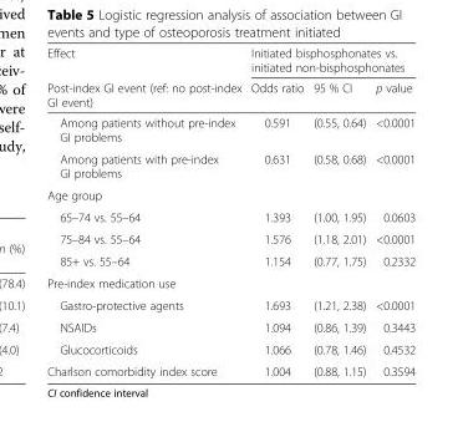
<table><thead><tr><td rowspan="2">Effect Post-index GI event (ref: no post-index GI event)</td><td colspan="3">Initiated bisphosphonates vs. initiated non-bisphosphonates</td></tr><tr><td>Odds ratio</td><td>95 % CI</td><td>p value</td></tr></thead><tbody><tr><td>Among patients without pre-index GI problems</td><td>0.591</td><td>(0.55, 0.64)</td><td>&lt;0.0001</td></tr><tr><td>Among patients with pre-index GI problems</td><td>0.631</td><td>(0.58, 0.68)</td><td>&lt;0.0001</td></tr><tr><td colspan="4">Age group</td></tr><tr><td>65–74 vs. 55–64</td><td>1.393</td><td>(1.00, 1.95)</td><td>0.0603</td></tr><tr><td>75–84 vs. 55–64</td><td>1.576</td><td>(1.18, 2.01)</td><td>&lt;0.0001</td></tr><tr><td>85+ vs. 55–64</td><td>1.154</td><td>(0.77, 1.75)</td><td>0.2332</td></tr><tr><td colspan="4">Pre-index medication use</td></tr><tr><td>Gastro-protective agents</td><td>1.693</td><td>(1.21, 2.38)</td><td>&lt;0.0001</td></tr><tr><td>NSAIDs</td><td>1.094</td><td>(0.86, 1.39)</td><td>0.3443</td></tr><tr><td>Glucocorticoids</td><td>1.066</td><td>(0.78, 1.46)</td><td>0.4532</td></tr><tr><td>Charlson comorbidity index score</td><td>1.004</td><td>(0.88, 1.15)</td><td>0.3594</td></tr></tbody></table>